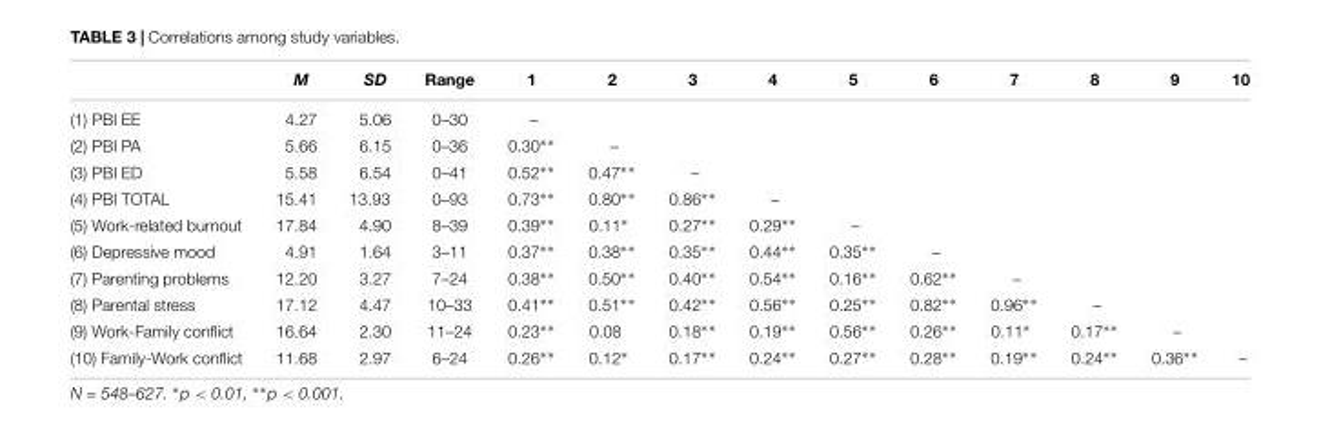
<table><thead><tr><td></td><td>M</td><td>SD</td><td>Range</td><td>1</td><td>2</td><td>3</td><td>4</td><td>5</td><td>6</td><td>7</td><td>8</td><td>9</td><td>10</td></tr></thead><tbody><tr><td>(1) PBI EE</td><td>4.27</td><td>5.06</td><td>0–30</td><td>–</td><td></td><td></td><td></td><td></td><td></td><td></td><td></td><td></td><td></td></tr><tr><td>(2) PBI PA</td><td>5.66</td><td>6.15</td><td>0–36</td><td>0.30∗∗</td><td>–</td><td></td><td></td><td></td><td></td><td></td><td></td><td></td><td></td></tr><tr><td>(3) PBI ED</td><td>5.58</td><td>6.54</td><td>0–41</td><td>0.52∗∗</td><td>0.47∗∗</td><td>–</td><td></td><td></td><td></td><td></td><td></td><td></td><td></td></tr><tr><td>(4) PBI TOTAL</td><td>15.41</td><td>13.93</td><td>0–93</td><td>0.73∗∗</td><td>0.80∗∗</td><td>0.86∗∗</td><td>–</td><td></td><td></td><td></td><td></td><td></td><td></td></tr><tr><td>(5) Work-related burnout</td><td>17.84</td><td>4.90</td><td>8–39</td><td>0.39∗∗</td><td>0.11∗</td><td>0.27∗∗</td><td>0.29∗∗</td><td>–</td><td></td><td></td><td></td><td></td><td></td></tr><tr><td>(6) Depressive mood</td><td>4.91</td><td>1.64</td><td>3–11</td><td>0.37∗∗</td><td>0.38∗∗</td><td>0.35∗∗</td><td>0.44∗∗</td><td>0.35∗∗</td><td>–</td><td></td><td></td><td></td><td></td></tr><tr><td>(7) Parenting problems</td><td>12.20</td><td>3.27</td><td>7–24</td><td>0.38∗∗</td><td>0.50∗∗</td><td>0.40∗∗</td><td>0.54∗∗</td><td>0.16∗∗</td><td>0.62∗∗</td><td>–</td><td></td><td></td><td></td></tr><tr><td>(8) Parental stress</td><td>17.12</td><td>4.47</td><td>10–33</td><td>0.41∗∗</td><td>0.51∗∗</td><td>0.42∗∗</td><td>0.56∗∗</td><td>0.25∗∗</td><td>0.82∗∗</td><td>0.96∗∗</td><td>–</td><td></td><td></td></tr><tr><td>(9) Work-Family conflict</td><td>16.64</td><td>2.30</td><td>11–24</td><td>0.23∗∗</td><td>0.08</td><td>0.18∗∗</td><td>0.19∗∗</td><td>0.56∗∗</td><td>0.26∗∗</td><td>0.11∗</td><td>0.17∗∗</td><td>–</td><td></td></tr><tr><td>(10) Family-Work conflict</td><td>11.68</td><td>2.97</td><td>6–24</td><td>0.26∗∗</td><td>0.12∗</td><td>0.17∗∗</td><td>0.24∗∗</td><td>0.27∗∗</td><td>0.28∗∗</td><td>0.19∗∗</td><td>0.24∗∗</td><td>0.36∗∗</td><td>–</td></tr></tbody></table>